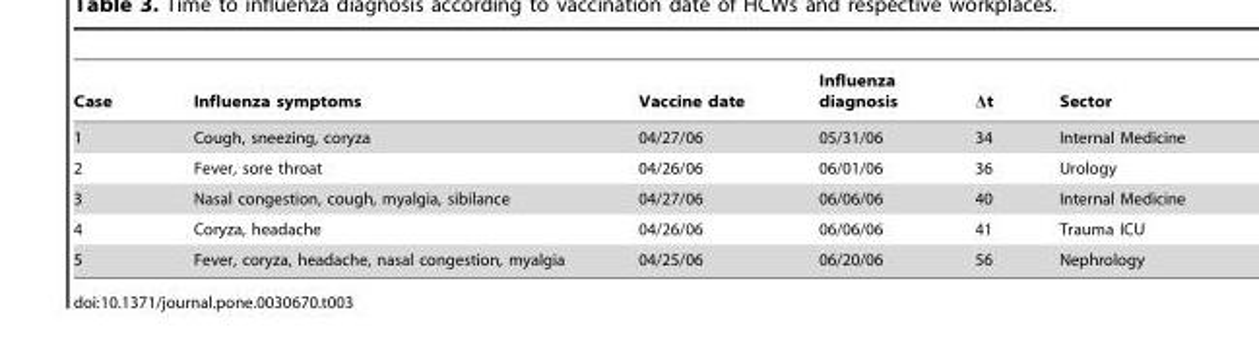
<table><thead><tr><td>Case</td><td>Influenza symptoms</td><td>Vaccine date</td><td>Influenza diagnosis</td><td>Δt</td><td>Sector</td></tr></thead><tbody><tr><td>1</td><td>Cough, sneezing, coryza</td><td>04/27/06</td><td>05/31/06</td><td>34</td><td>Internal Medicine</td></tr><tr><td>2</td><td>Fever, sore throat</td><td>04/26/06</td><td>06/01/06</td><td>36</td><td>Urology</td></tr><tr><td>3</td><td>Nasal congestion, cough, myalgia, sibilance</td><td>04/27/06</td><td>06/06/06</td><td>40</td><td>Internal Medicine</td></tr><tr><td>4</td><td>Coryza, headache</td><td>04/26/06</td><td>06/06/06</td><td>41</td><td>Trauma ICU</td></tr><tr><td>5</td><td>Fever, coryza, headache, nasal congestion, myalgia</td><td>04/25/06</td><td>06/20/06</td><td>56</td><td>Nephrology</td></tr></tbody></table>